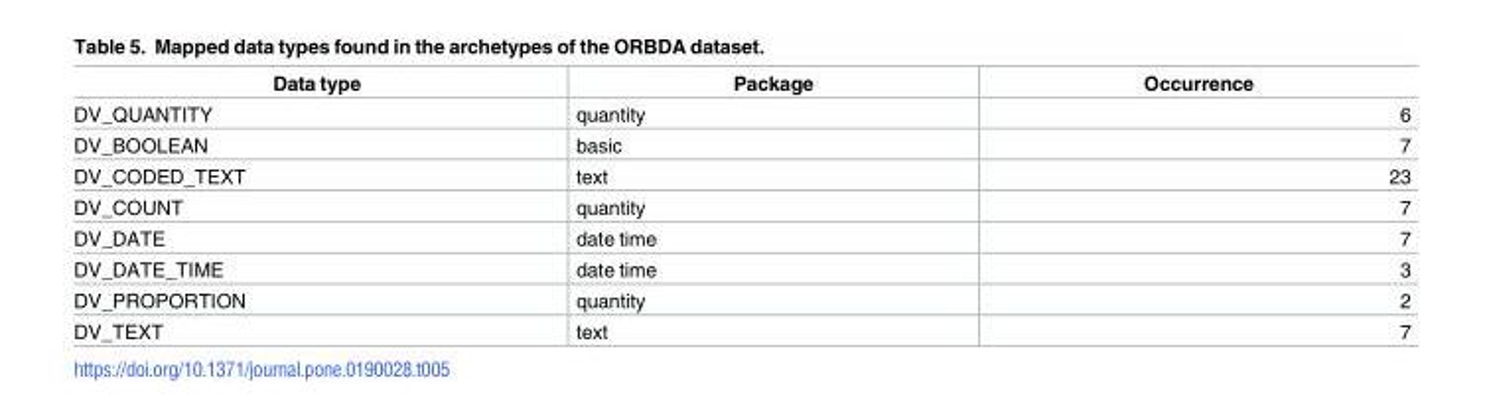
<table><thead><tr><td>Data type</td><td>Package</td><td>Occurrence</td></tr></thead><tbody><tr><td>DV_QUANTITY</td><td>quantity</td><td>6</td></tr><tr><td>DV_BOOLEAN</td><td>basic</td><td>7</td></tr><tr><td>DV_CODED_TEXT</td><td>text</td><td>23</td></tr><tr><td>DV_COUNT</td><td>quantity</td><td>7</td></tr><tr><td>DV_DATE</td><td>date time</td><td>7</td></tr><tr><td>DV_DATE_TIME</td><td>date time</td><td>3</td></tr><tr><td>DV_PROPORTION</td><td>quantity</td><td>2</td></tr><tr><td>DV_TEXT</td><td>text</td><td>7</td></tr></tbody></table>